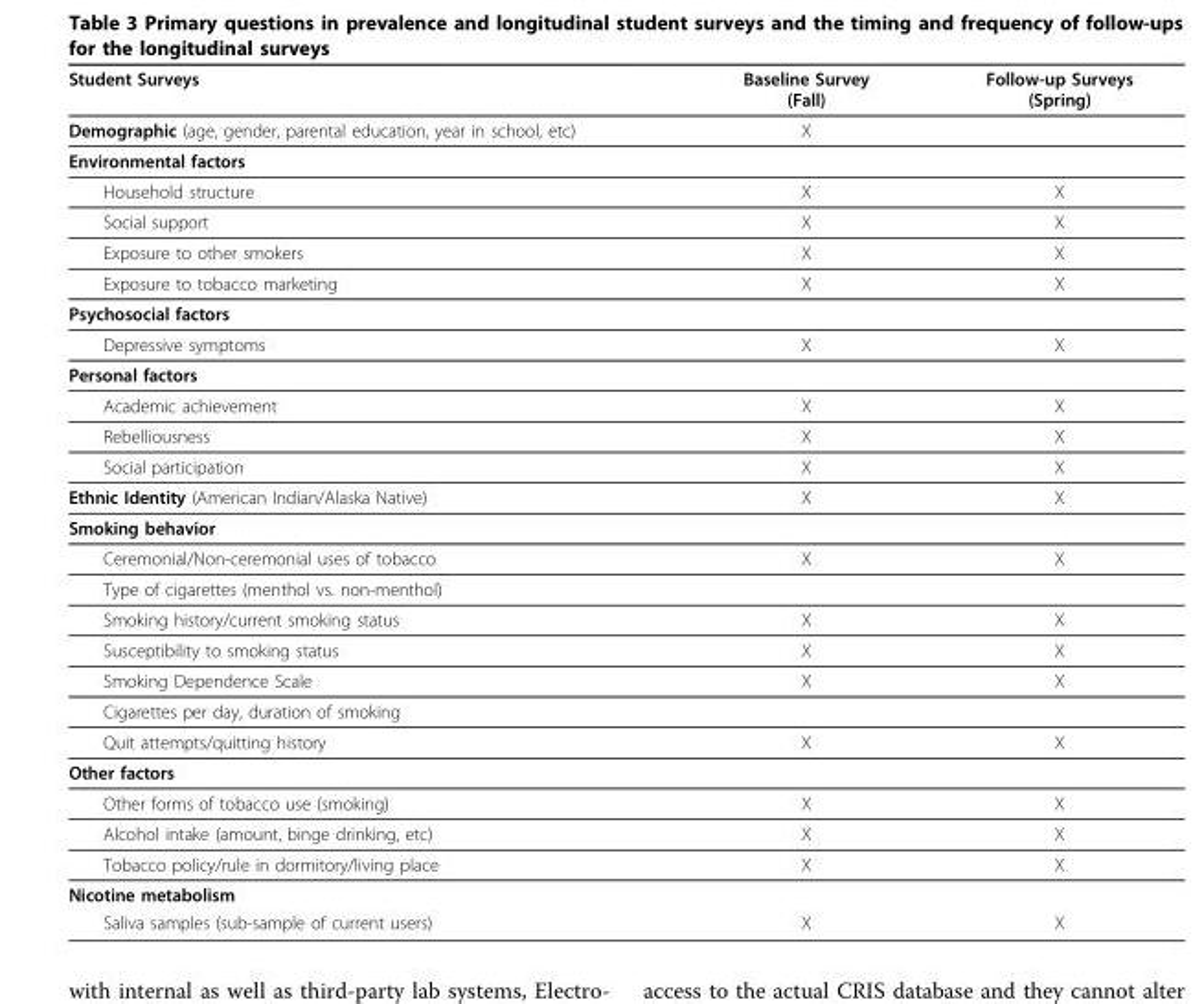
<table><thead><tr><td>Student Surveys</td><td>Baseline Survey (Fall)</td><td>Follow-up Surveys (Spring)</td></tr></thead><tbody><tr><td>Demographic (age, gender, parental education, year in school, etc)</td><td>X</td><td></td></tr><tr><td colspan="3">Environmental factors</td></tr><tr><td>Household structure</td><td>X</td><td>X</td></tr><tr><td>Social support</td><td>X</td><td>X</td></tr><tr><td>Exposure to other smokers</td><td>X</td><td>X</td></tr><tr><td>Exposure to tobacco marketing</td><td>X</td><td>X</td></tr><tr><td colspan="3">Psychosocial factors</td></tr><tr><td>Depressive symptoms</td><td>X</td><td>X</td></tr><tr><td colspan="3">Personal factors</td></tr><tr><td>Academic achievement</td><td>X</td><td>X</td></tr><tr><td>Rebelliousness</td><td>X</td><td>X</td></tr><tr><td>Social participation</td><td>X</td><td>X</td></tr><tr><td>Ethnic Identity (American Indian/Alaska Native)</td><td>X</td><td>X</td></tr><tr><td colspan="3">Smoking behavior</td></tr><tr><td>Ceremonial/Non-ceremonial uses of tobacco</td><td>X</td><td>X</td></tr><tr><td colspan="3">Type of cigarettes (menthol vs. non-menthol)</td></tr><tr><td>Smoking history/current smoking status</td><td>X</td><td>X</td></tr><tr><td>Susceptibility to smoking status</td><td>X</td><td>X</td></tr><tr><td>Smoking Dependence Scale</td><td>X</td><td>X</td></tr><tr><td colspan="3">Cigarettes per day, duration of smoking</td></tr><tr><td>Quit attempts/quitting history</td><td>X</td><td>X</td></tr><tr><td colspan="3">Other factors</td></tr><tr><td>Other forms of tobacco use (smoking)</td><td>X</td><td>X</td></tr><tr><td>Alcohol intake (amount, binge drinking, etc)</td><td>X</td><td>X</td></tr><tr><td>Tobacco policy/rule in dormitory/living place</td><td>X</td><td>X</td></tr><tr><td colspan="3">Nicotine metabolism</td></tr><tr><td>Saliva samples (sub-sample of current users)</td><td>X</td><td>X</td></tr></tbody></table>